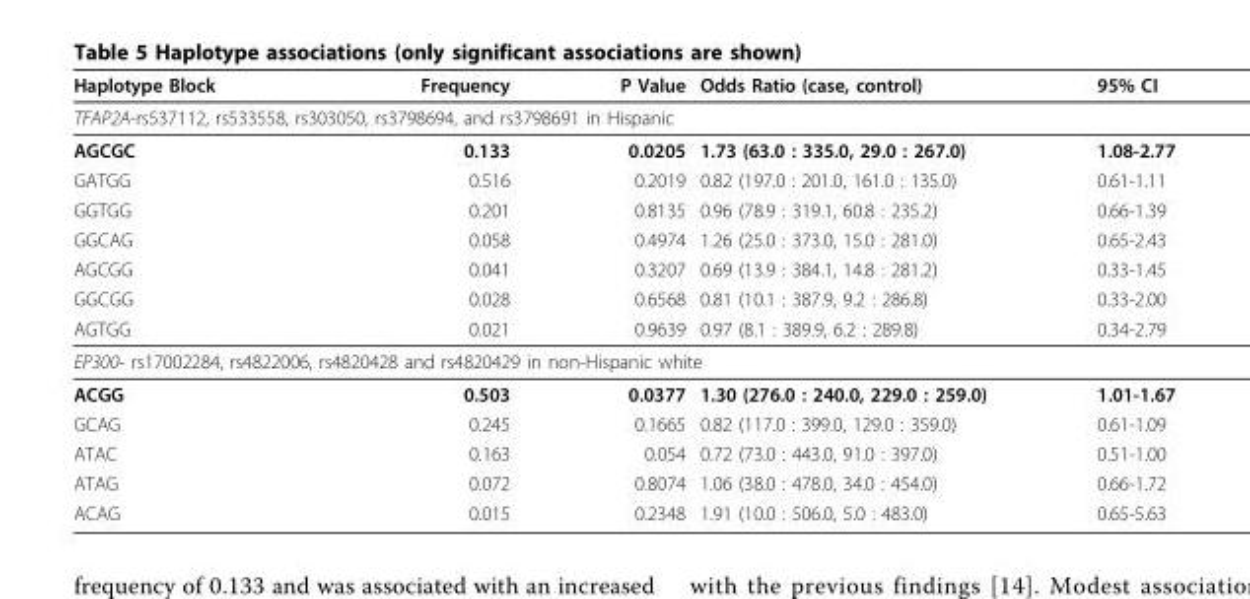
<table><thead><tr><td>Haplotype Block</td><td>Frequency</td><td>P Value</td><td>Odds Ratio (case, control)</td><td>95% CI</td></tr></thead><tbody><tr><td colspan="5">TFAP2A-rs537112, rs533558, rs303050, rs3798694, and rs3798691 in Hispanic</td></tr><tr><td>AGCGC</td><td>0.133</td><td>0.0205</td><td>1.73 (63.0 : 335.0, 29.0 : 267.0)</td><td>1.08-2.77</td></tr><tr><td>GATGG</td><td>0.516</td><td>0.2019</td><td>0.82 (197.0 : 201.0, 161.0 : 135.0)</td><td>0.61-1.11</td></tr><tr><td>GGTGG</td><td>0.201</td><td>0.8135</td><td>0.96 (78.9 : 319.1, 60.8 : 235.2)</td><td>0.66-1.39</td></tr><tr><td>GGCAG</td><td>0.058</td><td>0.4974</td><td>1.26 (25.0 : 373.0, 15.0 : 281.0)</td><td>0.65-2.43</td></tr><tr><td>AGCGG</td><td>0.041</td><td>0.3207</td><td>0.69 (13.9 : 384.1, 14.8 : 281.2)</td><td>0.33-1.45</td></tr><tr><td>GGCGG</td><td>0.028</td><td>0.6568</td><td>0.81 (10.1 : 387.9, 9.2 : 286.8)</td><td>0.33-2.00</td></tr><tr><td>AGTGG</td><td>0.021</td><td>0.9639</td><td>0.97 (8.1 : 389.9, 6.2 : 289.8)</td><td>0.34-2.79</td></tr><tr><td colspan="5">EP300- rs17002284, rs4822006, rs4820428 and rs4820429 in non-Hispanic white</td></tr><tr><td>ACGG</td><td>0.503</td><td>0.0377</td><td>1.30 (276.0 : 240.0, 229.0 : 259.0)</td><td>1.01-1.67</td></tr><tr><td>GCAG</td><td>0.245</td><td>0.1665</td><td>0.82 (117.0 : 399.0, 129.0 : 359.0)</td><td>0.61-1.09</td></tr><tr><td>ATAC</td><td>0.163</td><td>0.054</td><td>0.72 (73.0 : 443.0, 91.0 : 397.0)</td><td>0.51-1.00</td></tr><tr><td>ATAG</td><td>0.072</td><td>0.8074</td><td>1.06 (38.0 : 478.0, 34.0 : 454.0)</td><td>0.66-1.72</td></tr><tr><td>ACAG</td><td>0.015</td><td>0.2348</td><td>1.91 (10.0 : 506.0, 5.0 : 483.0)</td><td>0.65-5.63</td></tr></tbody></table>